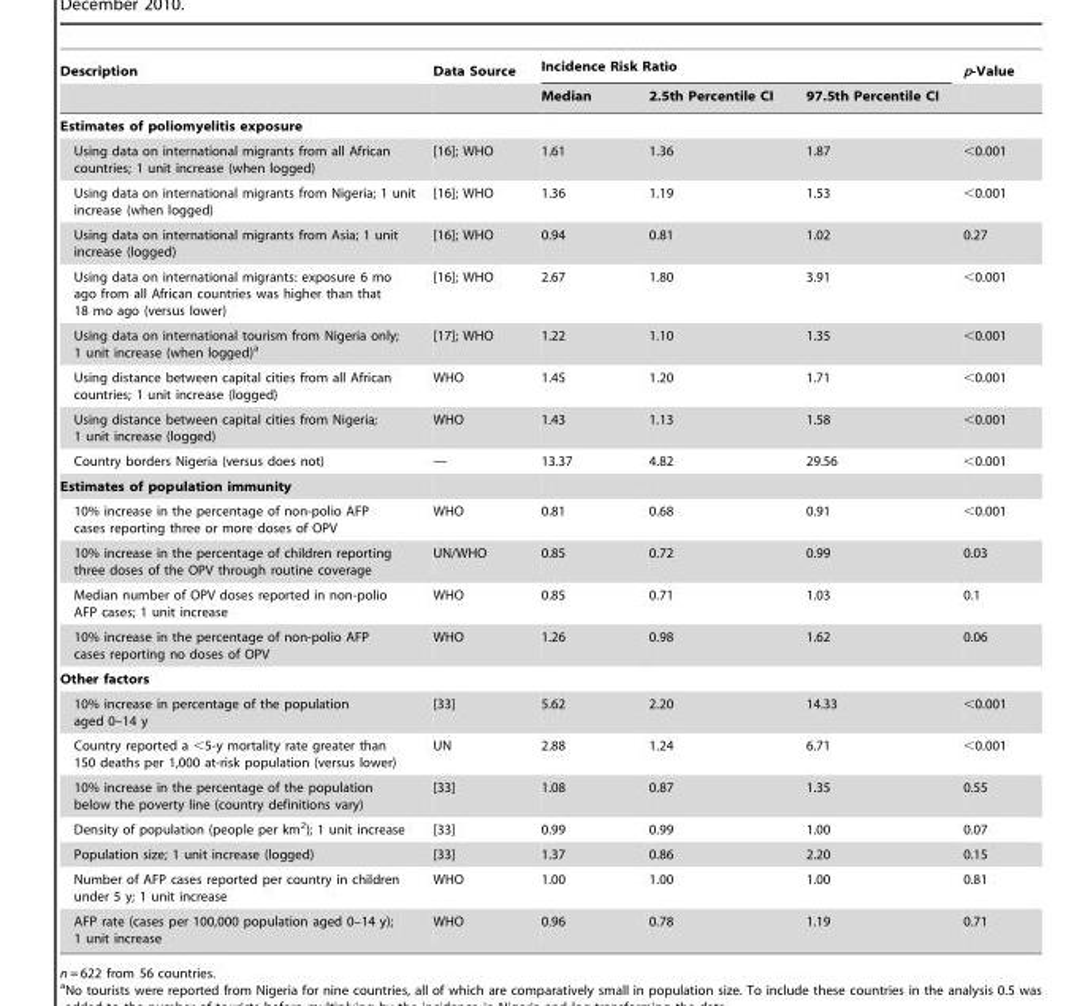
<table><thead><tr><td rowspan="2">Description</td><td rowspan="2">Data Source</td><td colspan="3">Incidence Risk Ratio</td><td rowspan="2">p-Value</td></tr><tr><td>Median</td><td>2.5th Percentile CI</td><td>97.5th Percentile CI</td></tr></thead><tbody><tr><td colspan="6">Estimates of poliomyelitis exposure</td></tr><tr><td>Using data on international migrants from all African countries; 1 unit increase (when logged)</td><td>[16]; WHO</td><td>1.61</td><td>1.36</td><td>1.87</td><td>&lt;0.001</td></tr><tr><td>Using data on international migrants from Nigeria; 1 unit increase (when logged)</td><td>[16]; WHO</td><td>1.36</td><td>1.19</td><td>1.53</td><td>&lt;0.001</td></tr><tr><td>Using data on international migrants from Asia; 1 unit increase (logged)</td><td>[16]; WHO</td><td>0.94</td><td>0.81</td><td>1.02</td><td>0.27</td></tr><tr><td>Using data on international migrants: exposure 6 mo ago from all African countries was higher than that 18 mo ago (versus lower)</td><td>[16]; WHO</td><td>2.67</td><td>1.80</td><td>3.91</td><td>&lt;0.001</td></tr><tr><td>Using data on international tourism from Nigeria only; 1 unit increase (when logged)<sup>a</sup></td><td>[17]; WHO</td><td>1.22</td><td>1.10</td><td>1.35</td><td>&lt;0.001</td></tr><tr><td>Using distance between capital cities from all African countries; 1 unit increase (logged)</td><td>WHO</td><td>1.45</td><td>1.20</td><td>1.71</td><td>&lt;0.001</td></tr><tr><td>Using distance between capital cities from Nigeria; 1 unit increase (logged)</td><td>WHO</td><td>1.43</td><td>1.13</td><td>1.58</td><td>&lt;0.001</td></tr><tr><td>Country borders Nigeria (versus does not)</td><td>—</td><td>13.37</td><td>4.82</td><td>29.56</td><td>&lt;0.001</td></tr><tr><td colspan="6">Estimates of population immunity</td></tr><tr><td>10% increase in the percentage of non-polio AFP cases reporting three or more doses of OPV</td><td>WHO</td><td>0.81</td><td>0.68</td><td>0.91</td><td>&lt;0.001</td></tr><tr><td>10% increase in the percentage of children reporting three doses of the OPV through routine coverage</td><td>UN/WHO</td><td>0.85</td><td>0.72</td><td>0.99</td><td>0.03</td></tr><tr><td>Median number of OPV doses reported in non-polio AFP cases; 1 unit increase</td><td>WHO</td><td>0.85</td><td>0.71</td><td>1.03</td><td>0.1</td></tr><tr><td>10% increase in the percentage of non-polio AFP cases reporting no doses of OPV</td><td>WHO</td><td>1.26</td><td>0.98</td><td>1.62</td><td>0.06</td></tr><tr><td colspan="6">Other factors</td></tr><tr><td>10% increase in percentage of the population aged 0–14 y</td><td>[33]</td><td>5.62</td><td>2.20</td><td>14.33</td><td>&lt;0.001</td></tr><tr><td>Country reported a &lt;5-y mortality rate greater than 150 deaths per 1,000 at-risk population (versus lower)</td><td>UN</td><td>2.88</td><td>1.24</td><td>6.71</td><td>&lt;0.001</td></tr><tr><td>10% increase in the percentage of the population below the poverty line (country definitions vary)</td><td>[33]</td><td>1.08</td><td>0.87</td><td>1.35</td><td>0.55</td></tr><tr><td>Density of population (people per km<sup>2</sup>); 1 unit increase</td><td>[33]</td><td>0.99</td><td>0.99</td><td>1.00</td><td>0.07</td></tr><tr><td>Population size; 1 unit increase (logged)</td><td>[33]</td><td>1.37</td><td>0.86</td><td>2.20</td><td>0.15</td></tr><tr><td>Number of AFP cases reported per country in children under 5 y; 1 unit increase</td><td>WHO</td><td>1.00</td><td>1.00</td><td>1.00</td><td>0.81</td></tr><tr><td>AFP rate (cases per 100,000 population aged 0–14 y); 1 unit increase</td><td>WHO</td><td>0.96</td><td>0.78</td><td>1.19</td><td>0.71</td></tr></tbody></table>